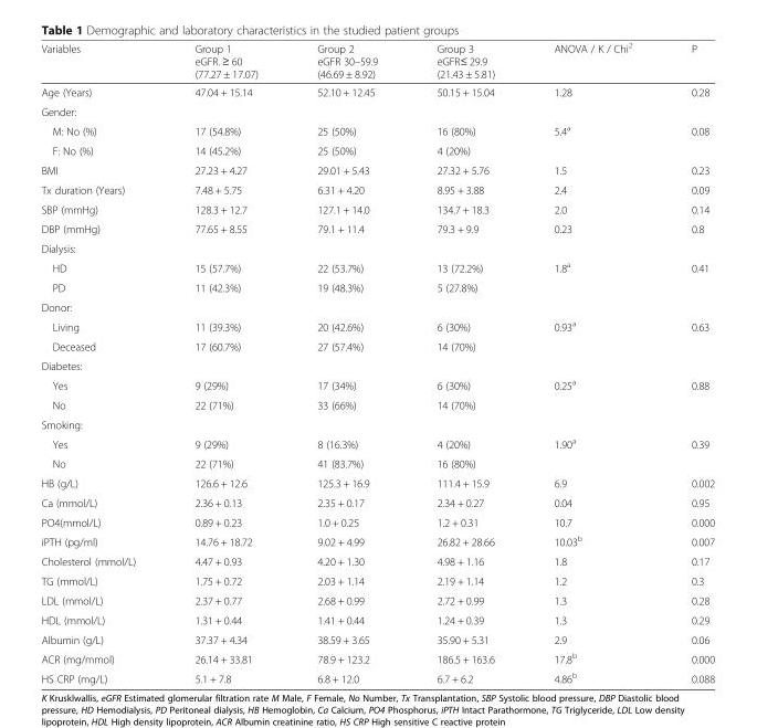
<table><thead><tr><td>Variables</td><td>Group 1 eGFR. ≥ 60 (77.27 ± 17.07)</td><td>Group 2 eGFR 30–59.9 (46.69 ± 8.92)</td><td>Group 3 eGFR≤ 29.9 (21.43 ± 5.81)</td><td>ANOVA / K / Chi<sup>2</sup></td><td>P</td></tr></thead><tbody><tr><td>Age (Years)</td><td>47.04 + 15.14</td><td>52.10 + 12.45</td><td>50.15 + 15.04</td><td>1.28</td><td>0.28</td></tr><tr><td colspan="6">Gender:</td></tr><tr><td>M: No (%)</td><td>17 (54.8%)</td><td>25 (50%)</td><td>16 (80%)</td><td rowspan="2">5.4<sup>a</sup></td><td rowspan="2">0.08</td></tr><tr><td>F: No (%)</td><td>14 (45.2%)</td><td>25 (50%)</td><td>4 (20%)</td></tr><tr><td>BMI</td><td>27.23 + 4.27</td><td>29.01 + 5.43</td><td>27.32 + 5.76</td><td>1.5</td><td>0.23</td></tr><tr><td>Tx duration (Years)</td><td>7.48 + 5.75</td><td>6.31 + 4.20</td><td>8.95 + 3.88</td><td>2.4</td><td>0.09</td></tr><tr><td>SBP (mmHg)</td><td>128.3 + 12.7</td><td>127.1 + 14.0</td><td>134.7 + 18.3</td><td>2.0</td><td>0.14</td></tr><tr><td>DBP (mmHg)</td><td>77.65 + 8.55</td><td>79.1 + 11.4</td><td>79.3 + 9.9</td><td>0.23</td><td>0.8</td></tr><tr><td colspan="6">Dialysis:</td></tr><tr><td>HD</td><td>15 (57.7%)</td><td>22 (53.7%)</td><td>13 (72.2%)</td><td rowspan="2">1.8<sup>a</sup></td><td rowspan="2">0.41</td></tr><tr><td>PD</td><td>11 (42.3%)</td><td>19 (48.3%)</td><td>5 (27.8%)</td></tr><tr><td colspan="6">Donor:</td></tr><tr><td>Living</td><td>11 (39.3%)</td><td>20 (42.6%)</td><td>6 (30%)</td><td rowspan="2">0.93<sup>a</sup></td><td rowspan="2">0.63</td></tr><tr><td>Deceased</td><td>17 (60.7%)</td><td>27 (57.4%)</td><td>14 (70%)</td></tr><tr><td colspan="6">Diabetes:</td></tr><tr><td>Yes</td><td>9 (29%)</td><td>17 (34%)</td><td>6 (30%)</td><td rowspan="2">0.25<sup>a</sup></td><td rowspan="2">0.88</td></tr><tr><td>No</td><td>22 (71%)</td><td>33 (66%)</td><td>14 (70%)</td></tr><tr><td colspan="6">Smoking:</td></tr><tr><td>Yes</td><td>9 (29%)</td><td>8 (16.3%)</td><td>4 (20%)</td><td rowspan="2">1.90<sup>a</sup></td><td rowspan="2">0.39</td></tr><tr><td>No</td><td>22 (71%)</td><td>41 (83.7%)</td><td>16 (80%)</td></tr><tr><td>HB (g/L)</td><td>126.6 + 12.6</td><td>125.3 + 16.9</td><td>111.4 + 15.9</td><td>6.9</td><td>0.002</td></tr><tr><td>Ca (mmol/L)</td><td>2.36 + 0.13</td><td>2.35 + 0.17</td><td>2.34 + 0.27</td><td>0.04</td><td>0.95</td></tr><tr><td>PO4(mmol/L)</td><td>0.89 + 0.23</td><td>1.0 + 0.25</td><td>1.2 + 0.31</td><td>10.7</td><td>0.000</td></tr><tr><td>iPTH (pg/ml)</td><td>14.76 + 18.72</td><td>9.02 + 4.99</td><td>26.82 + 28.66</td><td>10.03<sup>b</sup></td><td>0.007</td></tr><tr><td>Cholesterol (mmol/L)</td><td>4.47 + 0.93</td><td>4.20 + 1.30</td><td>4.98 + 1.16</td><td>1.8</td><td>0.17</td></tr><tr><td>TG (mmol/L)</td><td>1.75 + 0.72</td><td>2.03 + 1.14</td><td>2.19 + 1.14</td><td>1.2</td><td>0.3</td></tr><tr><td>LDL (mmol/L)</td><td>2.37 + 0.77</td><td>2.68 + 0.99</td><td>2.72 + 0.99</td><td>1.3</td><td>0.28</td></tr><tr><td>HDL (mmol/L)</td><td>1.31 + 0.44</td><td>1.41 + 0.44</td><td>1.24 + 0.39</td><td>1.3</td><td>0.29</td></tr><tr><td>Albumin (g/L)</td><td>37.37 + 4.34</td><td>38.59 + 3.65</td><td>35.90 + 5.31</td><td>2.9</td><td>0.06</td></tr><tr><td>ACR (mg/mmol)</td><td>26.14 + 33.81</td><td>78.9 + 123.2</td><td>186.5 + 163.6</td><td>17.8<sup>b</sup></td><td>0.000</td></tr><tr><td>HS CRP (mg/L)</td><td>5.1 + 7.8</td><td>6.8 + 12.0</td><td>6.7 + 6.2</td><td>4.86<sup>b</sup></td><td>0.088</td></tr></tbody></table>